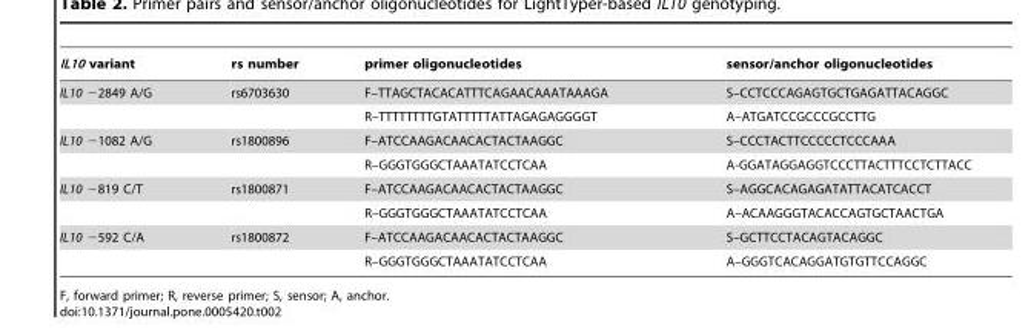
<table><thead><tr><td>IL10 variant</td><td>rs number</td><td>primer oligonucleotides</td><td>sensor/anchor oligonucleotides</td></tr></thead><tbody><tr><td rowspan="2">IL10 −2849 A/G</td><td>rs6703630</td><td>F–TTAGCTACACATTTCAGAACAAATAAAGA</td><td>S–CCTCCCAGAGTGCTGAGATTACAGGC</td></tr><tr><td></td><td>R–TTTTTTTTGTATTTTTATTAGAGAGGGGT</td><td>A–ATGATCCGCCCGCCTTG</td></tr><tr><td rowspan="2">IL10 −1082 A/G</td><td>rs1800896</td><td>F–ATCCAAGACAACACTACTAAGGC</td><td>S–CCCTACTTCCCCCTCCCAAA</td></tr><tr><td></td><td>R–GGGTGGGCTAAATATCCTCAA</td><td>A-GGATAGGAGGTCCCTTACTTTCCTCTTACC</td></tr><tr><td rowspan="2">IL10 −819 C/T</td><td>rs1800871</td><td>F–ATCCAAGACAACACTACTAAGGC</td><td>S–AGGCACAGAGATATTACATCACCT</td></tr><tr><td></td><td>R–GGGTGGGCTAAATATCCTCAA</td><td>A–ACAAGGGTACACCAGTGCTAACTGA</td></tr><tr><td rowspan="2">IL10 −592 C/A</td><td>rs1800872</td><td>F–ATCCAAGACAACACTACTAAGGC</td><td>S–GCTTCCTACAGTACAGGC</td></tr><tr><td></td><td>R–GGGTGGGCTAAATATCCTCAA</td><td>A–GGGTCACAGGATGTGTTCCAGGC</td></tr></tbody></table>